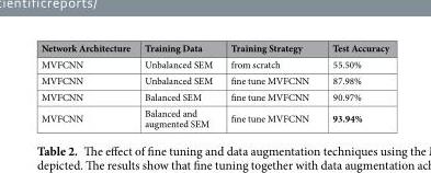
<table><thead><tr><td>Network Architecture</td><td>Training Data</td><td>Training Strategy</td><td>Test Accuracy</td></tr></thead><tbody><tr><td>MVFCNN</td><td>Unbalanced SEM</td><td>from scratch</td><td>55.50%</td></tr><tr><td>MVFCNN</td><td>Unbalanced SEM</td><td>fine tune MVFCNN</td><td>87.98%</td></tr><tr><td>MVFCNN</td><td>Balanced SEM</td><td>fine tune MVFCNN</td><td>90.97%</td></tr><tr><td>MVFCNN</td><td>Balanced and augmented SEM</td><td>fine tune MVFCNN</td><td>93.94%</td></tr></tbody></table>